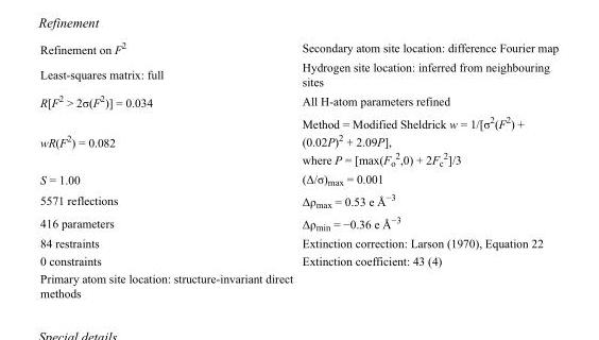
<table><tbody><tr><td>Refinement on F<sup>2</sup></td><td>Secondary atom site location: difference Fourier map</td></tr><tr><td>Least-squares matrix: full</td><td>Hydrogen site location: inferred from neighbouring sites</td></tr><tr><td>R[F<sup>2</sup> &gt; 2σ(F<sup>2</sup>)] = 0.034</td><td>All H-atom parameters refined</td></tr><tr><td>wR(F<sup>2</sup>) = 0.082</td><td>Method = Modified Sheldrick w = 1/[σ<sup>2</sup>(F<sup>2</sup>) + (0.02P)<sup>2</sup> + 2.09P], where P = [max(F<sub>o</sub> <sup>2</sup>,0) + 2F<sub>c</sub> <sup>2</sup>]/3</td></tr><tr><td>S = 1.00</td><td>(Δ/σ)<sub>max</sub> = 0.001</td></tr><tr><td>5571 reflections</td><td>Δρ<sub>max</sub> = 0.53 e Å<sup>−3</sup></td></tr><tr><td>416 parameters</td><td>Δρ<sub>min</sub> = −0.36 e Å<sup>−3</sup></td></tr><tr><td>84 restraints</td><td>Extinction correction: Larson (1970), Equation 22</td></tr><tr><td>0 constraints</td><td>Extinction coefficient: 43 (4)</td></tr><tr><td>Primary atom site location: structure-invariant direct methods</td><td></td></tr></tbody></table>